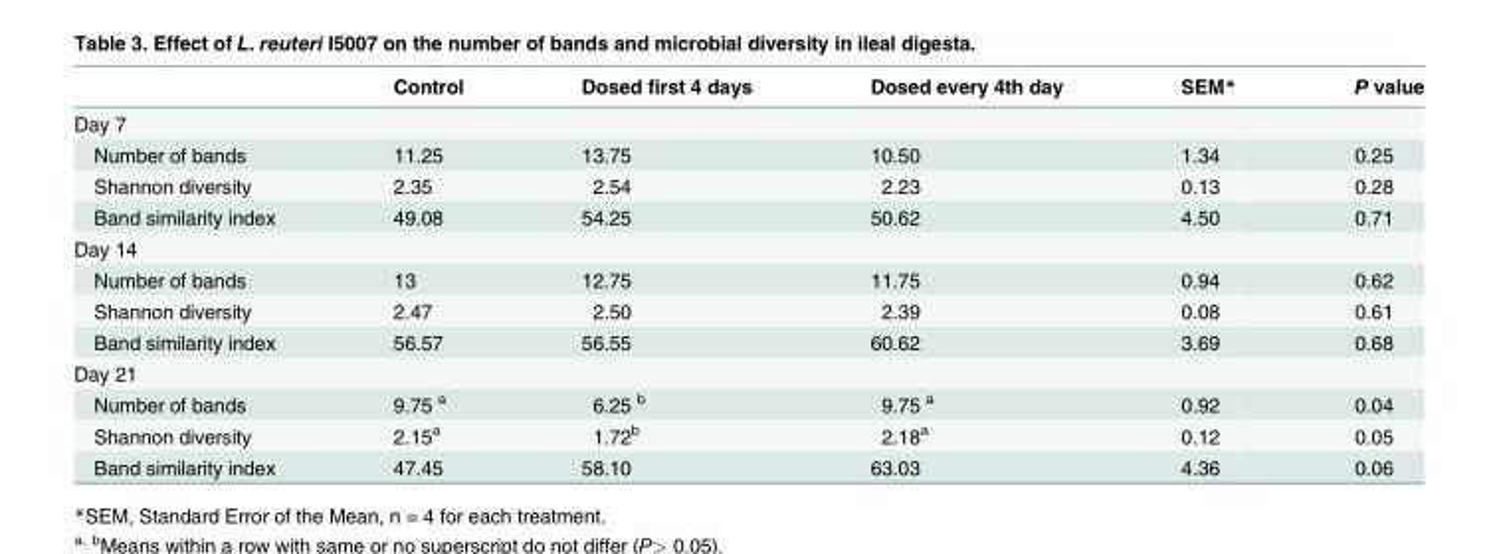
<table><thead><tr><td></td><td>Control</td><td>Dosed first 4 days</td><td>Dosed every 4th day</td><td>SEM*</td><td>P value</td></tr></thead><tbody><tr><td colspan="6">Day 7</td></tr><tr><td>Number of bands</td><td>11.25</td><td>13.75</td><td>10.50</td><td>1.34</td><td>0.25</td></tr><tr><td>Shannon diversity</td><td>2.35</td><td>2.54</td><td>2.23</td><td>0.13</td><td>0.28</td></tr><tr><td>Band similarity index</td><td>49.08</td><td>54.25</td><td>50.62</td><td>4.50</td><td>0.71</td></tr><tr><td colspan="6">Day 14</td></tr><tr><td>Number of bands</td><td>13</td><td>12.75</td><td>11.75</td><td>0.94</td><td>0.62</td></tr><tr><td>Shannon diversity</td><td>2.47</td><td>2.50</td><td>2.39</td><td>0.08</td><td>0.61</td></tr><tr><td>Band similarity index</td><td>56.57</td><td>56.55</td><td>60.62</td><td>3.69</td><td>0.68</td></tr><tr><td colspan="6">Day 21</td></tr><tr><td>Number of bands</td><td>9.75 <sup>a</sup></td><td>6.25 <sup>b</sup></td><td>9.75 <sup>a</sup></td><td>0.92</td><td>0.04</td></tr><tr><td>Shannon diversity</td><td>2.15<sup>a</sup></td><td>1.72<sup>b</sup></td><td>2.18<sup>a</sup></td><td>0.12</td><td>0.05</td></tr><tr><td>Band similarity index</td><td>47.45</td><td>58.10</td><td>63.03</td><td>4.36</td><td>0.06</td></tr></tbody></table>